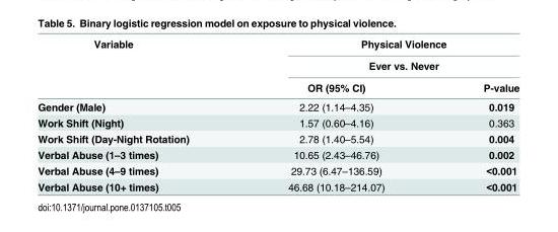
<table><thead><tr><td rowspan="3">Variable</td><td rowspan="2" colspan="2">Physical Violence Ever vs. Never</td></tr><tr></tr><tr><td>OR (95% CI)</td><td>P-value</td></tr></thead><tbody><tr><td>Gender (Male)</td><td>2.22 (1.14–4.35)</td><td>0.019</td></tr><tr><td>Work Shift (Night)</td><td>1.57 (0.60–4.16)</td><td>0.363</td></tr><tr><td>Work Shift (Day-Night Rotation)</td><td>2.78 (1.40–5.54)</td><td>0.004</td></tr><tr><td>Verbal Abuse (1–3 times)</td><td>10.65 (2.43–46.76)</td><td>0.002</td></tr><tr><td>Verbal Abuse (4–9 times)</td><td>29.73 (6.47–136.59)</td><td>&lt;0.001</td></tr><tr><td>Verbal Abuse (10+ times)</td><td>46.68 (10.18–214.07)</td><td>&lt;0.001</td></tr></tbody></table>